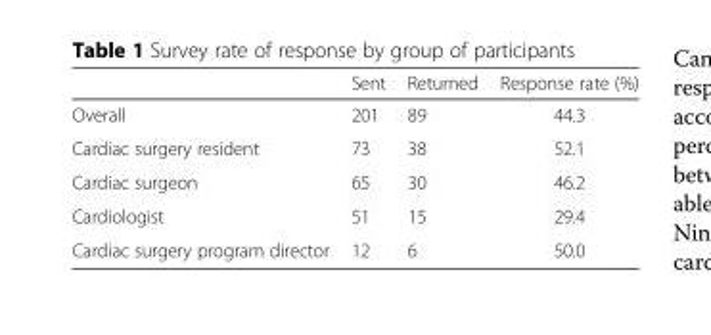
<table><thead><tr><td></td><td>Sent</td><td>Returned</td><td>Response rate (%)</td></tr></thead><tbody><tr><td>Overall</td><td>201</td><td>89</td><td>44.3</td></tr><tr><td>Cardiac surgery resident</td><td>73</td><td>38</td><td>52.1</td></tr><tr><td>Cardiac surgeon</td><td>65</td><td>30</td><td>46.2</td></tr><tr><td>Cardiologist</td><td>51</td><td>15</td><td>29.4</td></tr><tr><td>Cardiac surgery program director</td><td>12</td><td>6</td><td>50.0</td></tr></tbody></table>